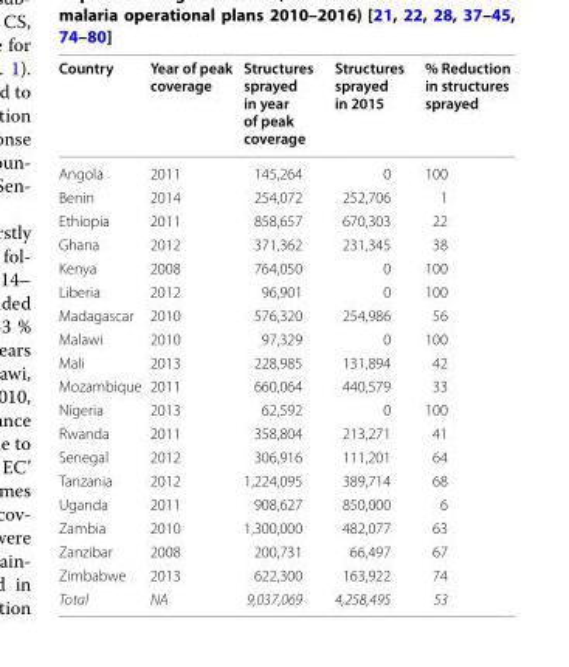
<table><thead><tr><td>Country</td><td>Year of peak coverage</td><td>Structures sprayed in year of peak coverage</td><td>Structures sprayed in 2015</td><td>% Reduction in structures sprayed</td></tr></thead><tbody><tr><td>Angola</td><td>2011</td><td>145,264</td><td>0</td><td>100</td></tr><tr><td>Benin</td><td>2014</td><td>254,072</td><td>252,706</td><td>1</td></tr><tr><td>Ethiopia</td><td>2011</td><td>858,657</td><td>670,303</td><td>22</td></tr><tr><td>Ghana</td><td>2012</td><td>371,362</td><td>231,345</td><td>38</td></tr><tr><td>Kenya</td><td>2008</td><td>764,050</td><td>0</td><td>100</td></tr><tr><td>Liberia</td><td>2012</td><td>96,901</td><td>0</td><td>100</td></tr><tr><td>Madagascar</td><td>2010</td><td>576,320</td><td>254,986</td><td>56</td></tr><tr><td>Malawi</td><td>2010</td><td>97,329</td><td>0</td><td>100</td></tr><tr><td>Mali</td><td>2013</td><td>228,985</td><td>131,894</td><td>42</td></tr><tr><td>Mozambique</td><td>2011</td><td>660,064</td><td>440,579</td><td>33</td></tr><tr><td>Nigeria</td><td>2013</td><td>62,592</td><td>0</td><td>100</td></tr><tr><td>Rwanda</td><td>2011</td><td>358,804</td><td>213,271</td><td>41</td></tr><tr><td>Senegal</td><td>2012</td><td>306,916</td><td>111,201</td><td>64</td></tr><tr><td>Tanzania</td><td>2012</td><td>1,224,095</td><td>389,714</td><td>68</td></tr><tr><td>Uganda</td><td>2011</td><td>908,627</td><td>850,000</td><td>6</td></tr><tr><td>Zambia</td><td>2010</td><td>1,300,000</td><td>482,077</td><td>63</td></tr><tr><td>Zanzibar</td><td>2008</td><td>200,731</td><td>66,497</td><td>67</td></tr><tr><td>Zimbabwe</td><td>2013</td><td>622,300</td><td>163,922</td><td>74</td></tr><tr><td>Total</td><td>NA</td><td>9,037,069</td><td>4,258,495</td><td>53</td></tr></tbody></table>